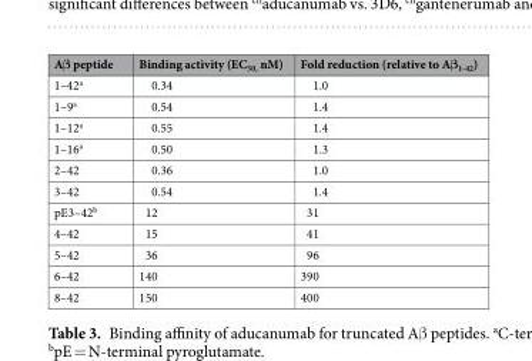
<table><thead><tr><td>Aβ peptide</td><td>Binding activity (EC<sub>50,</sub> nM)</td><td>Fold reduction (relative to Aβ<sub>1-42</sub>)</td></tr></thead><tbody><tr><td>1–42<sup>a</sup></td><td>0.34</td><td>1.0</td></tr><tr><td>1–9<sup>a</sup></td><td>0.54</td><td>1.4</td></tr><tr><td>1–12<sup>a</sup></td><td>0.55</td><td>1.4</td></tr><tr><td>1–16<sup>a</sup></td><td>0.50</td><td>1.3</td></tr><tr><td>2–42</td><td>0.36</td><td>1.0</td></tr><tr><td>3–42</td><td>0.54</td><td>1.4</td></tr><tr><td>pE3–42<sup>b</sup></td><td>12</td><td>31</td></tr><tr><td>4–42</td><td>15</td><td>41</td></tr><tr><td>5–42</td><td>36</td><td>96</td></tr><tr><td>6–42</td><td>140</td><td>390</td></tr><tr><td>8–42</td><td>150</td><td>400</td></tr></tbody></table>